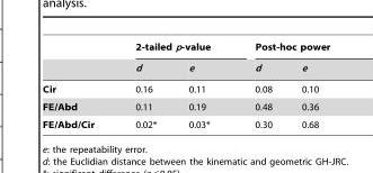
<table><thead><tr><td rowspan="2"></td><td colspan="2">2-tailed p-value</td><td colspan="2">Post-hoc power</td></tr><tr><td>d</td><td>e</td><td>d</td><td>e</td></tr></thead><tbody><tr><td>Cir</td><td>0.16</td><td>0.11</td><td>0.08</td><td>0.10</td></tr><tr><td>FE/Abd</td><td>0.11</td><td>0.19</td><td>0.48</td><td>0.36</td></tr><tr><td>FE/Abd/Cir</td><td>0.02*</td><td>0.03*</td><td>0.30</td><td>0.68</td></tr></tbody></table>